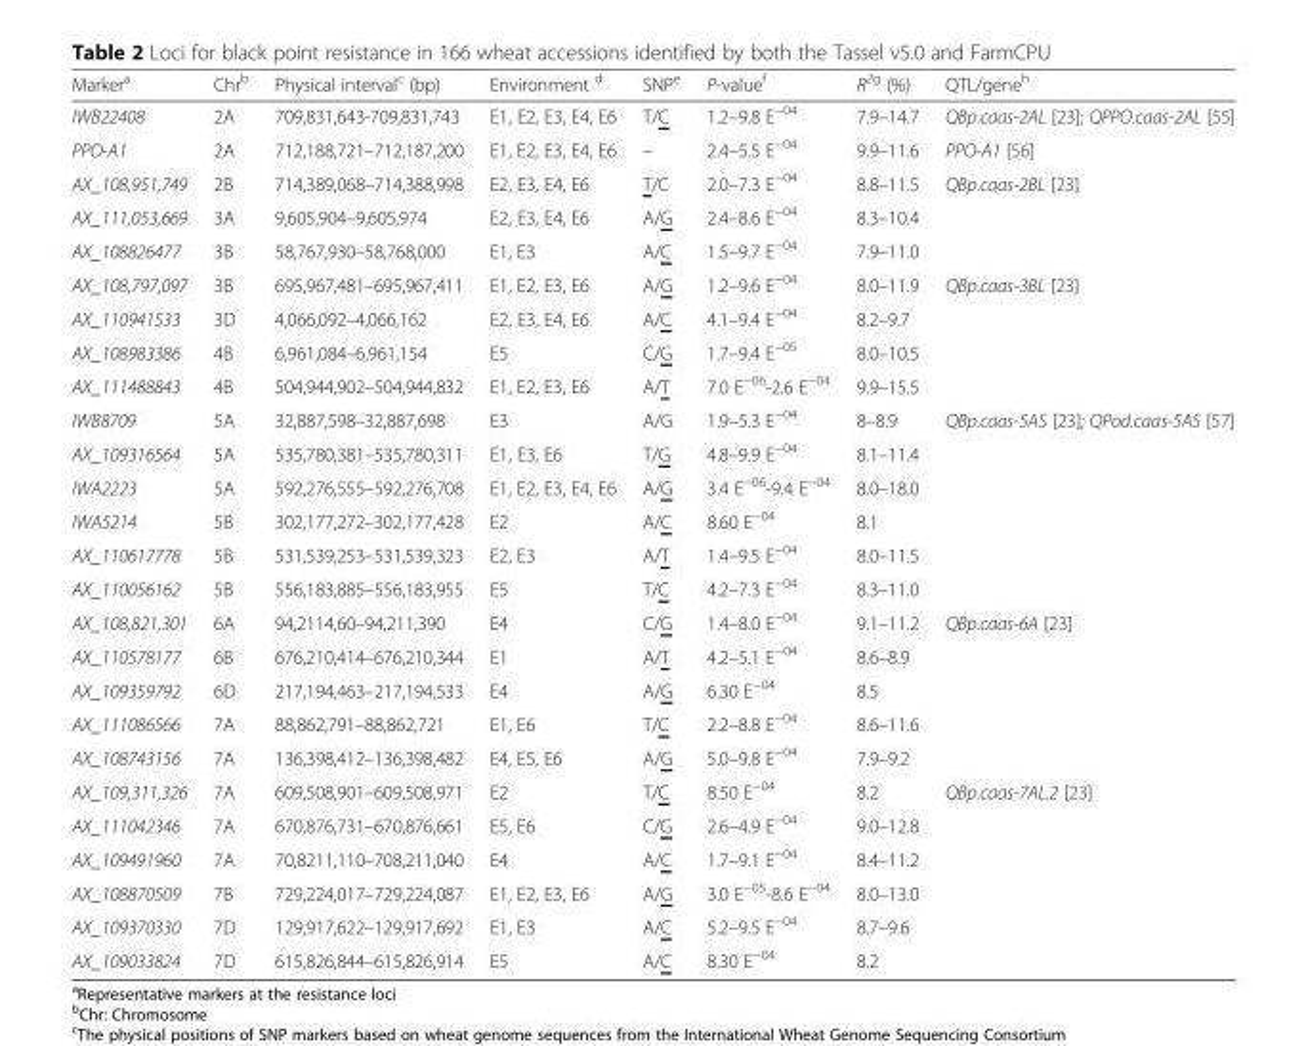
<table><thead><tr><td>Marker<sup>a</sup></td><td>Chr<sup>b</sup></td><td>Physical interval<sup>c</sup> (bp)</td><td>Environment <sup>d</sup></td><td>SNP<sup>e</sup></td><td>P-value<sup>f</sup></td><td>R<sup>2g</sup> (%)</td><td>QTL/gene<sup>h</sup></td></tr></thead><tbody><tr><td>IWB22408</td><td>2A</td><td>709,831,643-709,831,743</td><td>E1, E2, E3, E4, E6</td><td>T/C</td><td>1.2–9.8 E<sup>−04</sup></td><td>7.9–14.7</td><td>QBp.caas-2AL [23]; QPPO.caas-2AL [55]</td></tr><tr><td>PPO-A1</td><td>2A</td><td>712,188,721–712,187,200</td><td>E1, E2, E3, E4, E6</td><td>–</td><td>2.4–5.5 E<sup>−04</sup></td><td>9.9–11.6</td><td>PPO-A1 [56]</td></tr><tr><td>AX_108,951,749</td><td>2B</td><td>714,389,068–714,388,998</td><td>E2, E3, E4, E6</td><td>T/C</td><td>2.0–7.3 E<sup>−04</sup></td><td>8.8–11.5</td><td>QBp.caas-2BL [23]</td></tr><tr><td>AX_111,053,669</td><td>3A</td><td>9,605,904–9,605,974</td><td>E2, E3, E4, E6</td><td>A/G</td><td>2.4–8.6 E<sup>−04</sup></td><td>8.3–10.4</td><td></td></tr><tr><td>AX_108826477</td><td>3B</td><td>58,767,930–58,768,000</td><td>E1, E3</td><td>A/C</td><td>1.5–9.7 E<sup>−04</sup></td><td>7.9–11.0</td><td></td></tr><tr><td>AX_108,797,097</td><td>3B</td><td>695,967,481–695,967,411</td><td>E1, E2, E3, E6</td><td>A/G</td><td>1.2–9.6 E<sup>−04</sup></td><td>8.0–11.9</td><td>QBp.caas-3BL [23]</td></tr><tr><td>AX_110941533</td><td>3D</td><td>4,066,092–4,066,162</td><td>E2, E3, E4, E6</td><td>A/C</td><td>4.1–9.4 E<sup>−04</sup></td><td>8.2–9.7</td><td></td></tr><tr><td>AX_108983386</td><td>4B</td><td>6,961,084–6,961,154</td><td>E5</td><td>C/G</td><td>1.7–9.4 E<sup>−05</sup></td><td>8.0–10.5</td><td></td></tr><tr><td>AX_111488843</td><td>4B</td><td>504,944,902–504,944,832</td><td>E1, E2, E3, E6</td><td>A/T</td><td>7.0 E<sup>−06</sup>-2.6 E<sup>−04</sup></td><td>9.9–15.5</td><td></td></tr><tr><td>IWB8709</td><td>5A</td><td>32,887,598–32,887,698</td><td>E3</td><td>A/G</td><td>1.9–5.3 E<sup>−04</sup></td><td>8–8.9</td><td>QBp.caas-5AS [23]; QPod.caas-5AS [57]</td></tr><tr><td>AX_109316564</td><td>5A</td><td>535,780,381–535,780,311</td><td>E1, E3, E6</td><td>T/G</td><td>4.8–9.9 E<sup>−04</sup></td><td>8.1–11.4</td><td></td></tr><tr><td>IWA2223</td><td>5A</td><td>592,276,555–592,276,708</td><td>E1, E2, E3, E4, E6</td><td>A/G</td><td>3.4 E<sup>−06</sup>-9.4 E<sup>−04</sup></td><td>8.0–18.0</td><td></td></tr><tr><td>IWA5214</td><td>5B</td><td>302,177,272–302,177,428</td><td>E2</td><td>A/C</td><td>8.60 E<sup>−04</sup></td><td>8.1</td><td></td></tr><tr><td>AX_110617778</td><td>5B</td><td>531,539,253–531,539,323</td><td>E2, E3</td><td>A/T</td><td>1.4–9.5 E<sup>−04</sup></td><td>8.0–11.5</td><td></td></tr><tr><td>AX_110056162</td><td>5B</td><td>556,183,885–556,183,955</td><td>E5</td><td>T/C</td><td>4.2–7.3 E<sup>−04</sup></td><td>8.3–11.0</td><td></td></tr><tr><td>AX_108,821,301</td><td>6A</td><td>94,2114,60–94,211,390</td><td>E4</td><td>C/G</td><td>1.4–8.0 E<sup>−04</sup></td><td>9.1–11.2</td><td>QBp.caas-6A [23]</td></tr><tr><td>AX_110578177</td><td>6B</td><td>676,210,414–676,210,344</td><td>E1</td><td>A/T</td><td>4.2–5.1 E<sup>−04</sup></td><td>8.6–8.9</td><td></td></tr><tr><td>AX_109359792</td><td>6D</td><td>217,194,463–217,194,533</td><td>E4</td><td>A/G</td><td>6.30 E<sup>−04</sup></td><td>8.5</td><td></td></tr><tr><td>AX_111086566</td><td>7A</td><td>88,862,791–88,862,721</td><td>E1, E6</td><td>T/C</td><td>2.2–8.8 E<sup>−04</sup></td><td>8.6–11.6</td><td></td></tr><tr><td>AX_108743156</td><td>7A</td><td>136,398,412–136,398,482</td><td>E4, E5, E6</td><td>A/G</td><td>5.0–9.8 E<sup>−04</sup></td><td>7.9–9.2</td><td></td></tr><tr><td>AX_109,311,326</td><td>7A</td><td>609,508,901–609,508,971</td><td>E2</td><td>T/C</td><td>8.50 E<sup>−04</sup></td><td>8.2</td><td>QBp.caas-7AL.2 [23]</td></tr><tr><td>AX_111042346</td><td>7A</td><td>670,876,731–670,876,661</td><td>E5, E6</td><td>C/G</td><td>2.6–4.9 E<sup>−04</sup></td><td>9.0–12.8</td><td></td></tr><tr><td>AX_109491960</td><td>7A</td><td>70,8211,110–708,211,040</td><td>E4</td><td>A/C</td><td>1.7–9.1 E<sup>−04</sup></td><td>8.4–11.2</td><td></td></tr><tr><td>AX_108870509</td><td>7B</td><td>729,224,017–729,224,087</td><td>E1, E2, E3, E6</td><td>A/G</td><td>3.0 E<sup>−05</sup>-8.6 E<sup>−04</sup></td><td>8.0–13.0</td><td></td></tr><tr><td>AX_109370330</td><td>7D</td><td>129,917,622–129,917,692</td><td>E1, E3</td><td>A/C</td><td>5.2–9.5 E<sup>−04</sup></td><td>8.7–9.6</td><td></td></tr><tr><td>AX_109033824</td><td>7D</td><td>615,826,844–615,826,914</td><td>E5</td><td>A/C</td><td>8.30 E<sup>−04</sup></td><td>8.2</td><td></td></tr></tbody></table>